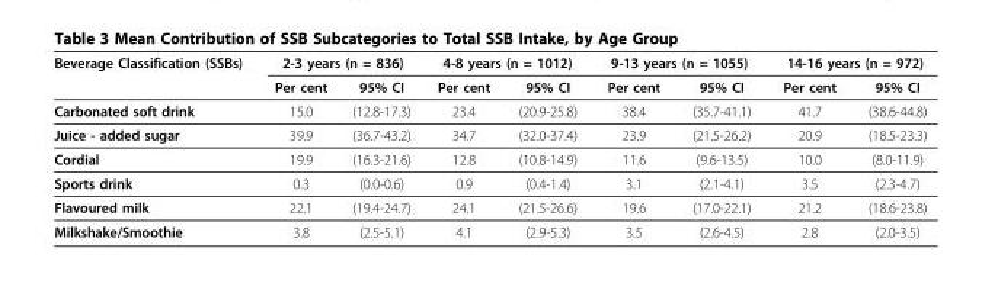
<table><thead><tr><td rowspan="2">Beverage Classification (SSBs)</td><td colspan="2">2-3 years (n = 836)</td><td colspan="2">4-8 years (n = 1012)</td><td colspan="2">9-13 years (n = 1055)</td><td colspan="2">14-16 years (n = 972)</td></tr><tr><td>Per cent</td><td>95% CI</td><td>Per cent</td><td>95% CI</td><td>Per cent</td><td>95% CI</td><td>Per cent</td><td>95% CI</td></tr></thead><tbody><tr><td>Carbonated soft drink</td><td>15.0</td><td>(12.8-17.3)</td><td>23.4</td><td>(20.9-25.8)</td><td>38.4</td><td>(35.7-41.1)</td><td>41.7</td><td>(38.6-44.8)</td></tr><tr><td>Juice - added sugar</td><td>39.9</td><td>(36.7-43.2)</td><td>34.7</td><td>(32.0-37.4)</td><td>23.9</td><td>(21.5-26.2)</td><td>20.9</td><td>(18.5-23.3)</td></tr><tr><td>Cordial</td><td>19.9</td><td>(16.3-21.6)</td><td>12.8</td><td>(10.8-14.9)</td><td>11.6</td><td>(9.6-13.5)</td><td>10.0</td><td>(8.0-11.9)</td></tr><tr><td>Sports drink</td><td>0.3</td><td>(0.0-0.6)</td><td>0.9</td><td>(0.4-1.4)</td><td>3.1</td><td>(2.1-4.1)</td><td>3.5</td><td>(2.3-4.7)</td></tr><tr><td>Flavoured milk</td><td>22.1</td><td>(19.4-24.7)</td><td>24.1</td><td>(21.5-26.6)</td><td>19.6</td><td>(17.0-22.1)</td><td>21.2</td><td>(18.6-23.8)</td></tr><tr><td>Milkshake/Smoothie</td><td>3.8</td><td>(2.5-5.1)</td><td>4.1</td><td>(2.9-5.3)</td><td>3.5</td><td>(2.6-4.5)</td><td>2.8</td><td>(2.0-3.5)</td></tr></tbody></table>